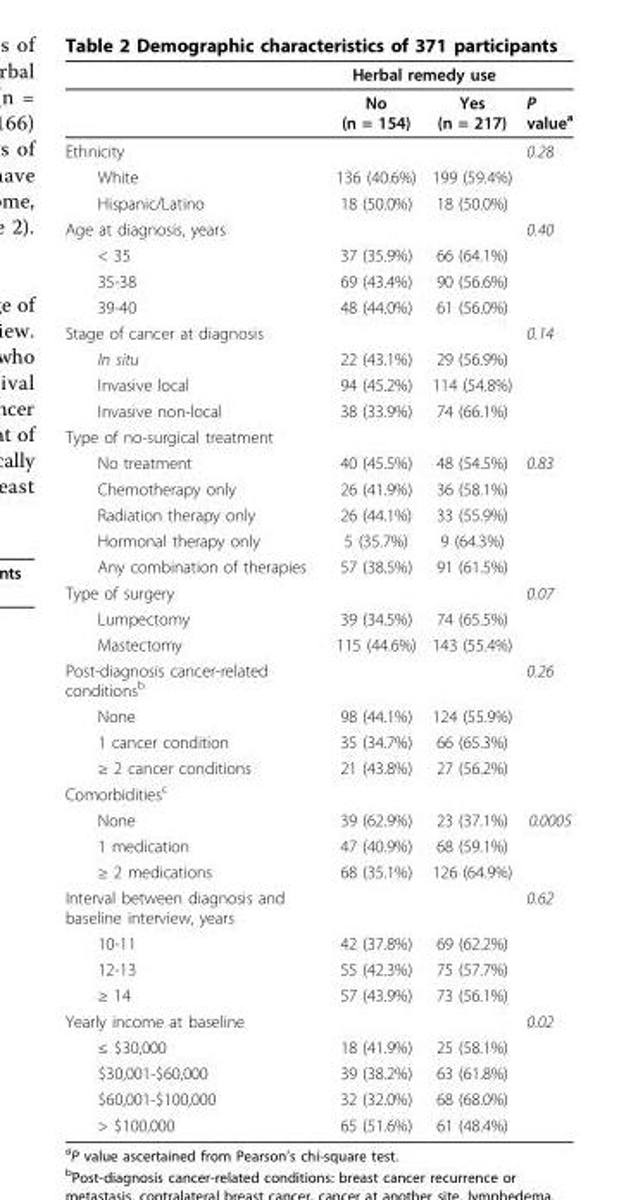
<table><thead><tr><td rowspan="2"></td><td colspan="2">Herbal remedy use</td><td rowspan="2">P value<sup>a</sup></td></tr><tr><td>No (n = 154)</td><td>Yes (n = 217)</td></tr></thead><tbody><tr><td>Ethnicity</td><td></td><td></td><td>0.28</td></tr><tr><td>White</td><td>136 (40.6%)</td><td>199 (59.4%)</td><td></td></tr><tr><td>Hispanic/Latino</td><td>18 (50.0%)</td><td>18 (50.0%)</td><td></td></tr><tr><td>Age at diagnosis, years</td><td></td><td></td><td>0.40</td></tr><tr><td>&lt; 35</td><td>37 (35.9%)</td><td>66 (64.1%)</td><td></td></tr><tr><td>35-38</td><td>69 (43.4%)</td><td>90 (56.6%)</td><td></td></tr><tr><td>39-40</td><td>48 (44.0%)</td><td>61 (56.0%)</td><td></td></tr><tr><td>Stage of cancer at diagnosis</td><td></td><td></td><td>0.14</td></tr><tr><td>In situ</td><td>22 (43.1%)</td><td>29 (56.9%)</td><td></td></tr><tr><td>Invasive local</td><td>94 (45.2%)</td><td>114 (54.8%)</td><td></td></tr><tr><td>Invasive non-local</td><td>38 (33.9%)</td><td>74 (66.1%)</td><td></td></tr><tr><td colspan="4">Type of no-surgical treatment</td></tr><tr><td>No treatment</td><td>40 (45.5%)</td><td>48 (54.5%)</td><td>0.83</td></tr><tr><td>Chemotherapy only</td><td>26 (41.9%)</td><td>36 (58.1%)</td><td></td></tr><tr><td>Radiation therapy only</td><td>26 (44.1%)</td><td>33 (55.9%)</td><td></td></tr><tr><td>Hormonal therapy only</td><td>5 (35.7%)</td><td>9 (64.3%)</td><td></td></tr><tr><td>Any combination of therapies</td><td>57 (38.5%)</td><td>91 (61.5%)</td><td></td></tr><tr><td>Type of surgery</td><td></td><td></td><td>0.07</td></tr><tr><td>Lumpectomy</td><td>39 (34.5%)</td><td>74 (65.5%)</td><td></td></tr><tr><td>Mastectomy</td><td>115 (44.6%)</td><td>143 (55.4%)</td><td></td></tr><tr><td>Post-diagnosis cancer-related conditions<sup>b</sup></td><td></td><td></td><td>0.26</td></tr><tr><td>None</td><td>98 (44.1%)</td><td>124 (55.9%)</td><td></td></tr><tr><td>1 cancer condition</td><td>35 (34.7%)</td><td>66 (65.3%)</td><td></td></tr><tr><td>≥ 2 cancer conditions</td><td>21 (43.8%)</td><td>27 (56.2%)</td><td></td></tr><tr><td colspan="4">Comorbidities<sup>c</sup></td></tr><tr><td>None</td><td>39 (62.9%)</td><td>23 (37.1%)</td><td>0.0005</td></tr><tr><td>1 medication</td><td>47 (40.9%)</td><td>68 (59.1%)</td><td></td></tr><tr><td>≥ 2 medications</td><td>68 (35.1%)</td><td>126 (64.9%)</td><td></td></tr><tr><td>Interval between diagnosis and baseline interview, years</td><td></td><td></td><td>0.62</td></tr><tr><td>10-11</td><td>42 (37.8%)</td><td>69 (62.2%)</td><td></td></tr><tr><td>12-13</td><td>55 (42.3%)</td><td>75 (57.7%)</td><td></td></tr><tr><td>≥ 14</td><td>57 (43.9%)</td><td>73 (56.1%)</td><td></td></tr><tr><td>Yearly income at baseline</td><td></td><td></td><td>0.02</td></tr><tr><td>≤ $30,000</td><td>18 (41.9%)</td><td>25 (58.1%)</td><td></td></tr><tr><td>$30,001-$60,000</td><td>39 (38.2%)</td><td>63 (61.8%)</td><td></td></tr><tr><td>$60,001-$100,000</td><td>32 (32.0%)</td><td>68 (68.0%)</td><td></td></tr><tr><td>&gt; $100,000</td><td>65 (51.6%)</td><td>61 (48.4%)</td><td></td></tr></tbody></table>